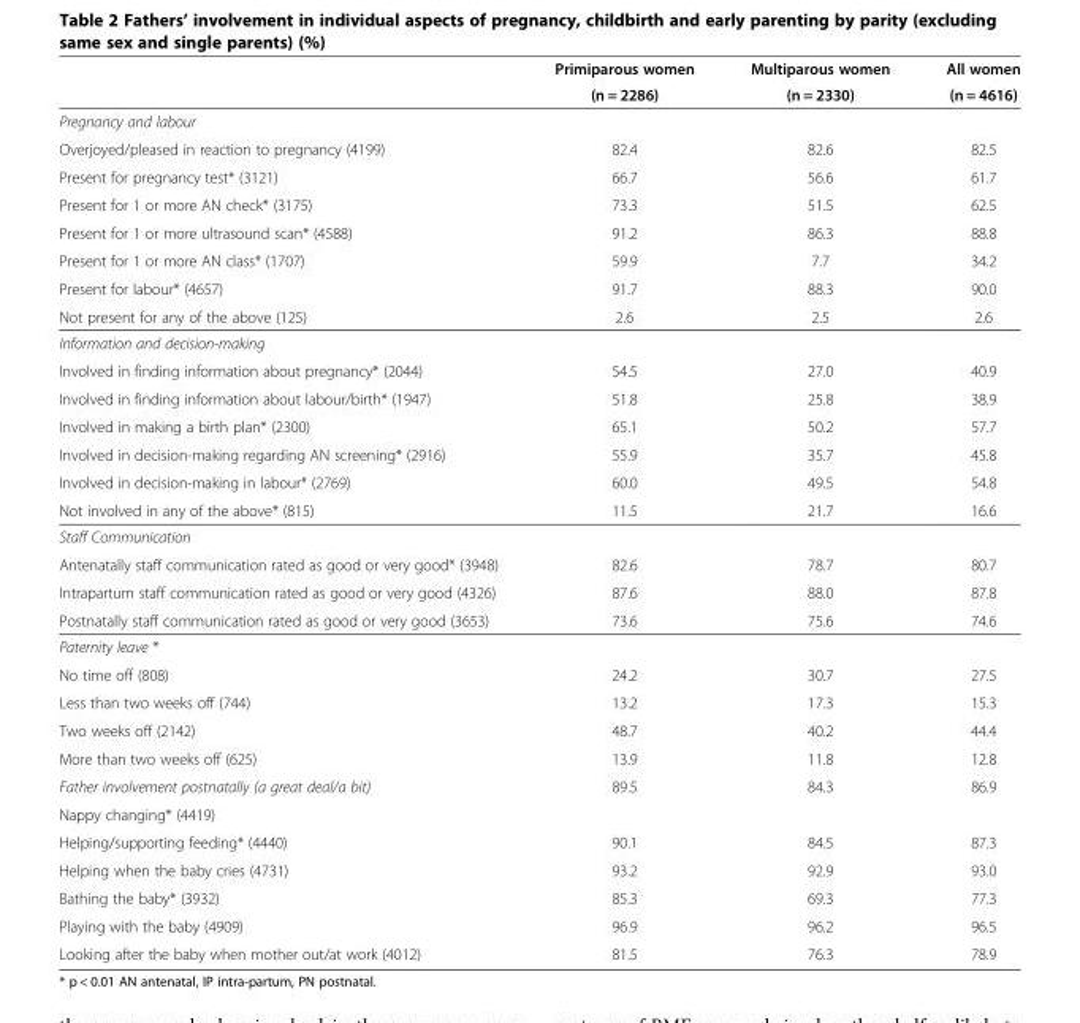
<table><thead><tr><td rowspan="2"></td><td rowspan="2">Primiparous women (n = 2286)</td><td rowspan="2">Multiparous women (n = 2330)</td><td rowspan="2">All women (n = 4616)</td></tr><tr></tr></thead><tbody><tr><td colspan="4">Pregnancy and labour</td></tr><tr><td>Overjoyed/pleased in reaction to pregnancy (4199)</td><td>82.4</td><td>82.6</td><td>82.5</td></tr><tr><td>Present for pregnancy test* (3121)</td><td>66.7</td><td>56.6</td><td>61.7</td></tr><tr><td>Present for 1 or more AN check* (3175)</td><td>73.3</td><td>51.5</td><td>62.5</td></tr><tr><td>Present for 1 or more ultrasound scan* (4588)</td><td>91.2</td><td>86.3</td><td>88.8</td></tr><tr><td>Present for 1 or more AN class* (1707)</td><td>59.9</td><td>7.7</td><td>34.2</td></tr><tr><td>Present for labour* (4657)</td><td>91.7</td><td>88.3</td><td>90.0</td></tr><tr><td>Not present for any of the above (125)</td><td>2.6</td><td>2.5</td><td>2.6</td></tr><tr><td colspan="4">Information and decision-making</td></tr><tr><td>Involved in finding information about pregnancy* (2044)</td><td>54.5</td><td>27.0</td><td>40.9</td></tr><tr><td>Involved in finding information about labour/birth* (1947)</td><td>51.8</td><td>25.8</td><td>38.9</td></tr><tr><td>Involved in making a birth plan* (2300)</td><td>65.1</td><td>50.2</td><td>57.7</td></tr><tr><td>Involved in decision-making regarding AN screening* (2916)</td><td>55.9</td><td>35.7</td><td>45.8</td></tr><tr><td>Involved in decision-making in labour* (2769)</td><td>60.0</td><td>49.5</td><td>54.8</td></tr><tr><td>Not involved in any of the above* (815)</td><td>11.5</td><td>21.7</td><td>16.6</td></tr><tr><td colspan="4">Staff Communication</td></tr><tr><td>Antenatally staff communication rated as good or very good* (3948)</td><td>82.6</td><td>78.7</td><td>80.7</td></tr><tr><td>Intrapartum staff communication rated as good or very good (4326)</td><td>87.6</td><td>88.0</td><td>87.8</td></tr><tr><td>Postnatally staff communication rated as good or very good (3653)</td><td>73.6</td><td>75.6</td><td>74.6</td></tr><tr><td colspan="4">Paternity leave *</td></tr><tr><td>No time off (808)</td><td>24.2</td><td>30.7</td><td>27.5</td></tr><tr><td>Less than two weeks off (744)</td><td>13.2</td><td>17.3</td><td>15.3</td></tr><tr><td>Two weeks off (2142)</td><td>48.7</td><td>40.2</td><td>44.4</td></tr><tr><td>More than two weeks off (625)</td><td>13.9</td><td>11.8</td><td>12.8</td></tr><tr><td>Father involvement postnatally (a great deal/a bit)</td><td rowspan="2">89.5</td><td rowspan="2">84.3</td><td rowspan="2">86.9</td></tr><tr><td>Nappy changing* (4419)</td></tr><tr><td>Helping/supporting feeding* (4440)</td><td>90.1</td><td>84.5</td><td>87.3</td></tr><tr><td>Helping when the baby cries (4731)</td><td>93.2</td><td>92.9</td><td>93.0</td></tr><tr><td>Bathing the baby* (3932)</td><td>85.3</td><td>69.3</td><td>77.3</td></tr><tr><td>Playing with the baby (4909)</td><td>96.9</td><td>96.2</td><td>96.5</td></tr><tr><td>Looking after the baby when mother out/at work (4012)</td><td>81.5</td><td>76.3</td><td>78.9</td></tr></tbody></table>